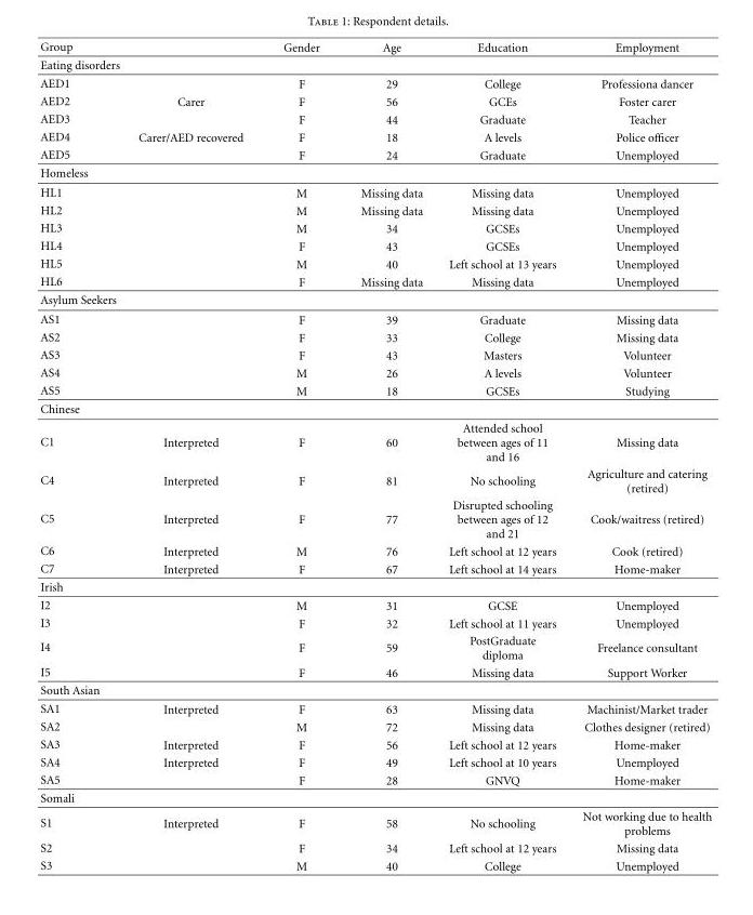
<table><thead><tr><td>Group</td><td></td><td>Gender</td><td>Age</td><td>Education</td><td>Employment</td></tr></thead><tbody><tr><td colspan="6">Eating disorders</td></tr><tr><td>AED1</td><td></td><td>F</td><td>29</td><td>College</td><td>Professiona dancer</td></tr><tr><td>AED2</td><td>Carer</td><td>F</td><td>56</td><td>GCEs</td><td>Foster carer</td></tr><tr><td>AED3</td><td></td><td>F</td><td>44</td><td>Graduate</td><td>Teacher</td></tr><tr><td>AED4</td><td>Carer/AED recovered</td><td>F</td><td>18</td><td>A levels</td><td>Police officer</td></tr><tr><td>AED5</td><td></td><td>F</td><td>24</td><td>Graduate</td><td>Unemployed</td></tr><tr><td colspan="6">Homeless</td></tr><tr><td>HL1</td><td></td><td>M</td><td>Missing data</td><td>Missing data</td><td>Unemployed</td></tr><tr><td>HL2</td><td></td><td>M</td><td>Missing data</td><td>Missing data</td><td>Unemployed</td></tr><tr><td>HL3</td><td></td><td>M</td><td>34</td><td>GCSEs</td><td>Unemployed</td></tr><tr><td>HL4</td><td></td><td>F</td><td>43</td><td>GCSEs</td><td>Unemployed</td></tr><tr><td>HL5</td><td></td><td>M</td><td>40</td><td>Left school at 13 years</td><td>Unemployed</td></tr><tr><td>HL6</td><td></td><td>F</td><td>Missing data</td><td>Missing data</td><td>Unemployed</td></tr><tr><td colspan="6">Asylum Seekers</td></tr><tr><td>AS1</td><td></td><td>F</td><td>39</td><td>Graduate</td><td>Missing data</td></tr><tr><td>AS2</td><td></td><td>F</td><td>33</td><td>College</td><td>Missing data</td></tr><tr><td>AS3</td><td></td><td>F</td><td>43</td><td>Masters</td><td>Volunteer</td></tr><tr><td>AS4</td><td></td><td>M</td><td>26</td><td>A levels</td><td>Volunteer</td></tr><tr><td>AS5</td><td></td><td>M</td><td>18</td><td>GCSEs</td><td>Studying</td></tr><tr><td colspan="6">Chinese</td></tr><tr><td>C1</td><td>Interpreted</td><td>F</td><td>60</td><td>Attended school between ages of 11 and 16</td><td>Missing data</td></tr><tr><td>C4</td><td>Interpreted</td><td>F</td><td>81</td><td>No schooling</td><td>Agriculture and catering (retired)</td></tr><tr><td>C5</td><td>Interpreted</td><td>F</td><td>77</td><td>Disrupted schooling between ages of 12 and 21</td><td>Cook/waitress (retired)</td></tr><tr><td>C6</td><td>Interpreted</td><td>M</td><td>76</td><td>Left school at 12 years</td><td>Cook (retired)</td></tr><tr><td>C7</td><td>Interpreted</td><td>F</td><td>67</td><td>Left school at 14 years</td><td>Home-maker</td></tr><tr><td colspan="6">Irish</td></tr><tr><td>I2</td><td></td><td>M</td><td>31</td><td>GCSE</td><td>Unemployed</td></tr><tr><td>I3</td><td></td><td>F</td><td>32</td><td>Left school at 11 years</td><td>Unemployed</td></tr><tr><td>I4</td><td></td><td>F</td><td>59</td><td>PostGraduate diploma</td><td>Freelance consultant</td></tr><tr><td>I5</td><td></td><td>F</td><td>46</td><td>Missing data</td><td>Support Worker</td></tr><tr><td colspan="6">South Asian</td></tr><tr><td>SA1</td><td>Interpreted</td><td>F</td><td>63</td><td>Missing data</td><td>Machinist/Market trader</td></tr><tr><td>SA2</td><td></td><td>M</td><td>72</td><td>Missing data</td><td>Clothes designer (retired)</td></tr><tr><td>SA3</td><td>Interpreted</td><td>F</td><td>56</td><td>Left school at 12 years</td><td>Home-maker</td></tr><tr><td>SA4</td><td>Interpreted</td><td>F</td><td>49</td><td>Left school at 10 years</td><td>Unemployed</td></tr><tr><td>SA5</td><td></td><td>F</td><td>28</td><td>GNVQ</td><td>Home-maker</td></tr><tr><td colspan="6">Somali</td></tr><tr><td>S1</td><td>Interpreted</td><td>F</td><td>58</td><td>No schooling</td><td>Not working due to health problems</td></tr><tr><td>S2</td><td></td><td>F</td><td>34</td><td>Left school at 12 years</td><td>Missing data</td></tr><tr><td>S3</td><td></td><td>M</td><td>40</td><td>College</td><td>Unemployed</td></tr></tbody></table>